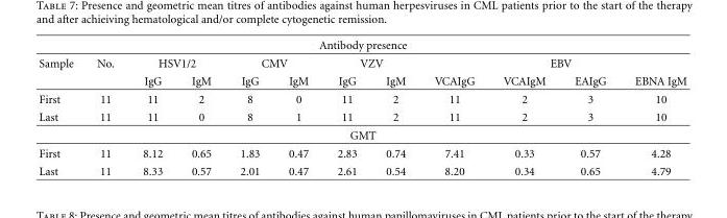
<table><thead><tr><td colspan="12">Antibody presence</td></tr><tr><td rowspan="2">Sample</td><td rowspan="2">No.</td><td colspan="2">HSV1/2</td><td colspan="2">CMV</td><td colspan="2">VZV</td><td colspan="4">EBV</td></tr><tr><td>IgG</td><td>IgM</td><td>IgG</td><td>IgM</td><td>IgG</td><td>IgM</td><td>VCAIgG</td><td>VCAIgM</td><td>EAIgG</td><td>EBNA IgM</td></tr></thead><tbody><tr><td>First</td><td>11</td><td>11</td><td>2</td><td>8</td><td>0</td><td>11</td><td>2</td><td>11</td><td>2</td><td>3</td><td>10</td></tr><tr><td>Last</td><td>11</td><td>11</td><td>0</td><td>8</td><td>1</td><td>11</td><td>2</td><td>11</td><td>2</td><td>3</td><td>10</td></tr><tr><td colspan="12">GMT</td></tr><tr><td>First</td><td>11</td><td>8.12</td><td>0.65</td><td>1.83</td><td>0.47</td><td>2.83</td><td>0.74</td><td>7.41</td><td>0.33</td><td>0.57</td><td>4.28</td></tr><tr><td>Last</td><td>11</td><td>8.33</td><td>0.57</td><td>2.01</td><td>0.47</td><td>2.61</td><td>0.54</td><td>8.20</td><td>0.34</td><td>0.65</td><td>4.79</td></tr></tbody></table>